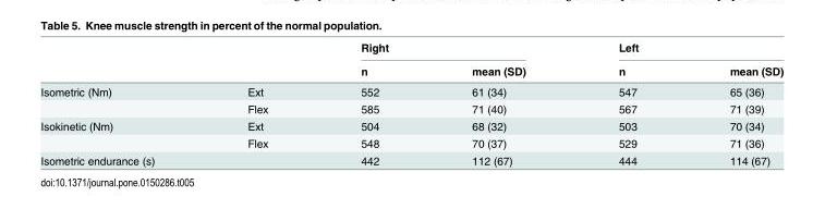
<table><thead><tr><td rowspan="2"></td><td rowspan="2"></td><td colspan="2">Right</td><td colspan="2">Left</td></tr><tr><td>n</td><td>mean (SD)</td><td>n</td><td>mean (SD)</td></tr></thead><tbody><tr><td rowspan="2">Isometric (Nm)</td><td>Ext</td><td>552</td><td>61 (34)</td><td>547</td><td>65 (36)</td></tr><tr><td>Flex</td><td>585</td><td>71 (40)</td><td>567</td><td>71 (39)</td></tr><tr><td rowspan="2">Isokinetic (Nm)</td><td>Ext</td><td>504</td><td>68 (32)</td><td>503</td><td>70 (34)</td></tr><tr><td>Flex</td><td>548</td><td>70 (37)</td><td>529</td><td>71 (36)</td></tr><tr><td>Isometric endurance (s)</td><td></td><td>442</td><td>112 (67)</td><td>444</td><td>114 (67)</td></tr></tbody></table>